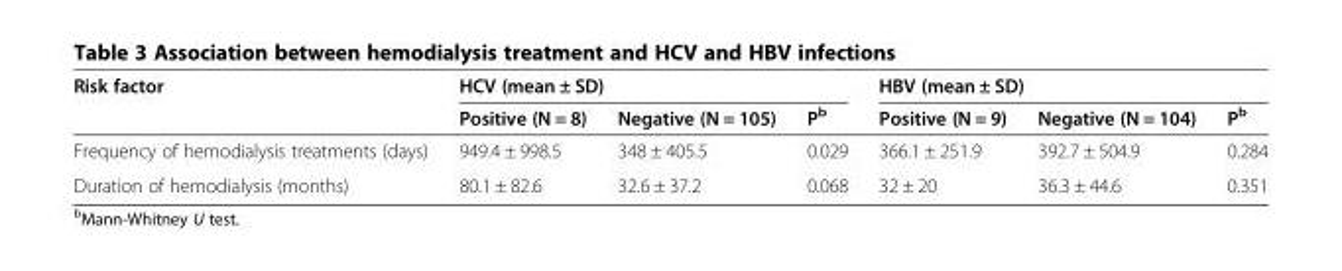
<table><thead><tr><td rowspan="2">Risk factor</td><td colspan="3">HCV (mean ± SD)</td><td colspan="3">HBV (mean ± SD)</td></tr><tr><td>Positive (N = 8)</td><td>Negative (N = 105)</td><td>P<sup>b</sup></td><td>Positive (N = 9)</td><td>Negative (N = 104)</td><td>P<sup>b</sup></td></tr></thead><tbody><tr><td>Frequency of hemodialysis treatments (days)</td><td>949.4 ± 998.5</td><td>348 ± 405.5</td><td>0.029</td><td>366.1 ± 251.9</td><td>392.7 ± 504.9</td><td>0.284</td></tr><tr><td>Duration of hemodialysis (months)</td><td>80.1 ± 82.6</td><td>32.6 ± 37.2</td><td>0.068</td><td>32 ± 20</td><td>36.3 ± 44.6</td><td>0.351</td></tr></tbody></table>